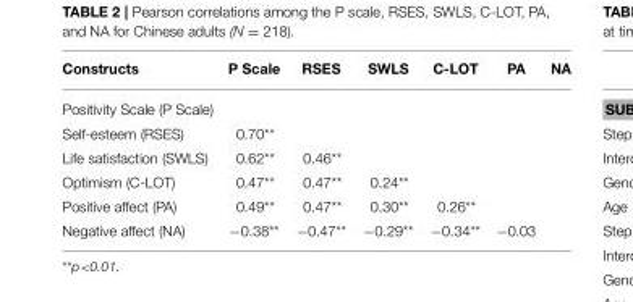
<table><thead><tr><td>Constructs</td><td>P Scale</td><td>RSES</td><td>SWLS</td><td>C-LOT</td><td>PA</td><td>NA</td></tr></thead><tbody><tr><td colspan="7">Positivity Scale (P Scale)</td></tr><tr><td>Self-esteem (RSES)</td><td>0.70**</td><td></td><td></td><td></td><td></td><td></td></tr><tr><td>Life satisfaction (SWLS)</td><td>0.62**</td><td>0.46**</td><td></td><td></td><td></td><td></td></tr><tr><td>Optimism (C-LOT)</td><td>0.47**</td><td>0.47**</td><td>0.24**</td><td></td><td></td><td></td></tr><tr><td>Positive affect (PA)</td><td>0.49**</td><td>0.47**</td><td>0.30**</td><td>0.26**</td><td></td><td></td></tr><tr><td>Negative affect (NA)</td><td>−0.38**</td><td>−0.47**</td><td>−0.29**</td><td>−0.34**</td><td>−0.03</td><td></td></tr></tbody></table>